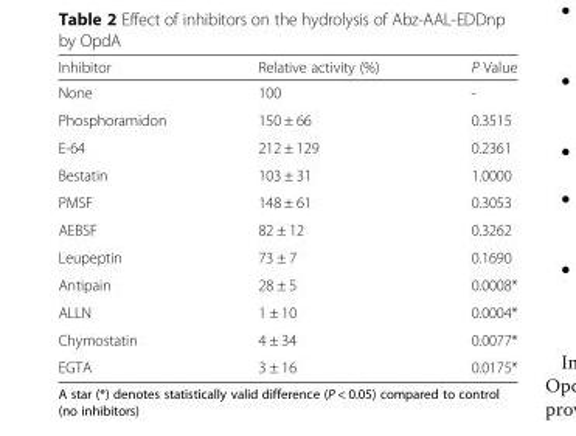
<table><thead><tr><td>Inhibitor</td><td>Relative activity (%)</td><td>P Value</td></tr></thead><tbody><tr><td>None</td><td>100</td><td>-</td></tr><tr><td>Phosphoramidon</td><td>150 ± 66</td><td>0.3515</td></tr><tr><td>E-64</td><td>212 ± 129</td><td>0.2361</td></tr><tr><td>Bestatin</td><td>103 ± 31</td><td>1.0000</td></tr><tr><td>PMSF</td><td>148 ± 61</td><td>0.3053</td></tr><tr><td>AEBSF</td><td>82 ± 12</td><td>0.3262</td></tr><tr><td>Leupeptin</td><td>73 ± 7</td><td>0.1690</td></tr><tr><td>Antipain</td><td>28 ± 5</td><td>0.0008*</td></tr><tr><td>ALLN</td><td>1 ± 10</td><td>0.0004*</td></tr><tr><td>Chymostatin</td><td>4 ± 34</td><td>0.0077*</td></tr><tr><td>EGTA</td><td>3 ± 16</td><td>0.0175*</td></tr></tbody></table>